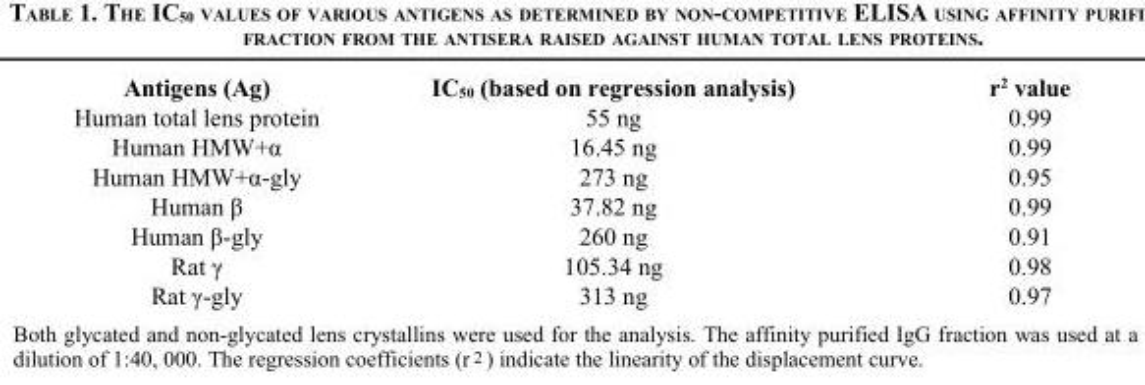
<table><thead><tr><td>Antigens (Ag)</td><td>IC<sub>50</sub> (based on regression analysis)</td><td>r<sup>2</sup> value</td></tr></thead><tbody><tr><td>Human total lens protein</td><td>55 ng</td><td>0.99</td></tr><tr><td>Human HMW+α</td><td>16.45 ng</td><td>0.99</td></tr><tr><td>Human HMW+α-gly</td><td>273 ng</td><td>0.95</td></tr><tr><td>Human β</td><td>37.82 ng</td><td>0.99</td></tr><tr><td>Human β-gly</td><td>260 ng</td><td>0.91</td></tr><tr><td>Rat γ</td><td>105.34 ng</td><td>0.98</td></tr><tr><td>Rat γ-gly</td><td>313 ng</td><td>0.97</td></tr></tbody></table>